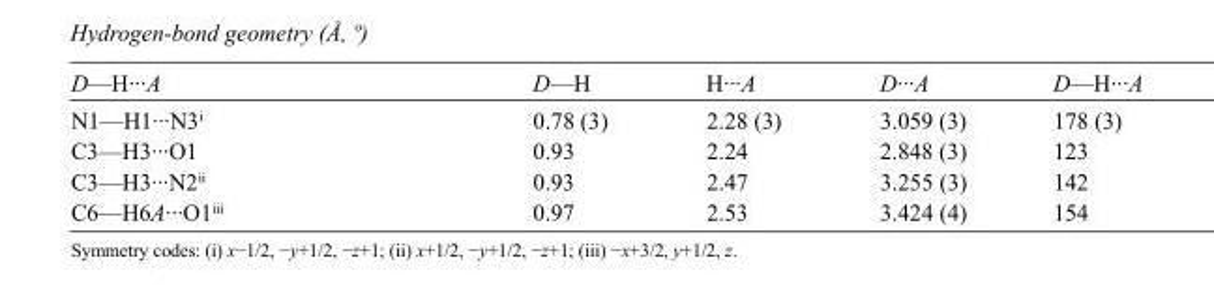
<table><tbody><tr><td>D—H···A</td><td>D—H</td><td>H···A</td><td>D···A</td><td>D—H···A</td></tr><tr><td>N1—H1···N3<sup>i</sup></td><td>0.78 (3)</td><td>2.28 (3)</td><td>3.059 (3)</td><td>178 (3)</td></tr><tr><td>C3—H3···O1</td><td>0.93</td><td>2.24</td><td>2.848 (3)</td><td>123</td></tr><tr><td>C3—H3···N2<sup>ii</sup></td><td>0.93</td><td>2.47</td><td>3.255 (3)</td><td>142</td></tr><tr><td>C6—H6A···O1<sup>iii</sup></td><td>0.97</td><td>2.53</td><td>3.424 (4)</td><td>154</td></tr></tbody></table>